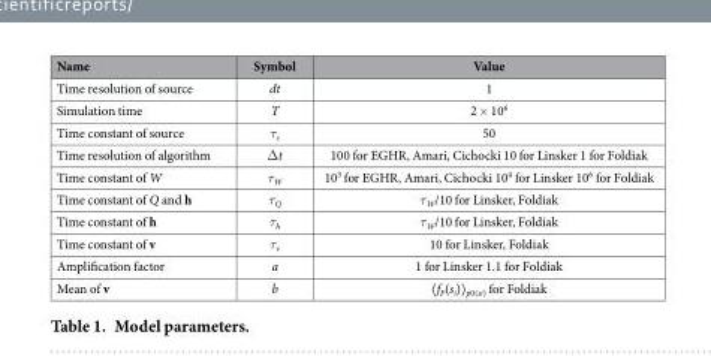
<table><thead><tr><td>Name</td><td>Symbol</td><td>Value</td></tr></thead><tbody><tr><td>Time resolution of source</td><td>dt</td><td>1</td></tr><tr><td>Simulation time</td><td>T</td><td>2 × 10<sup>6</sup></td></tr><tr><td>Time constant of source</td><td>τ<sub>s</sub></td><td>50</td></tr><tr><td>Time resolution of algorithm</td><td>Δ t</td><td>100 for EGHR, Amari, Cichocki 10 for Linsker 1 for Foldiak</td></tr><tr><td>Time constant of W</td><td>τ<sub>W</sub></td><td>10<sup>3</sup> for EGHR, Amari, Cichocki 10<sup>4</sup> for Linsker 10<sup>6</sup> for Foldiak</td></tr><tr><td>Time constant of Q and h</td><td>τ<sub>Q</sub></td><td>τ<sub>W</sub>/10 for Linsker, Foldiak</td></tr><tr><td>Time constant of h</td><td>τ<sub>h</sub></td><td>τ<sub>W</sub>/10 for Linsker, Foldiak</td></tr><tr><td>Time constant of v</td><td>τ<sub>v</sub></td><td>10 for Linsker, Foldiak</td></tr><tr><td>Amplification factor</td><td>a</td><td>1 for Linsker 1.1 for Foldiak</td></tr><tr><td>Mean of v</td><td>b</td><td>〈 f<sub>F</sub>(s<sub>i</sub>)〉 <sub>p0(si)</sub> for Foldiak</td></tr></tbody></table>